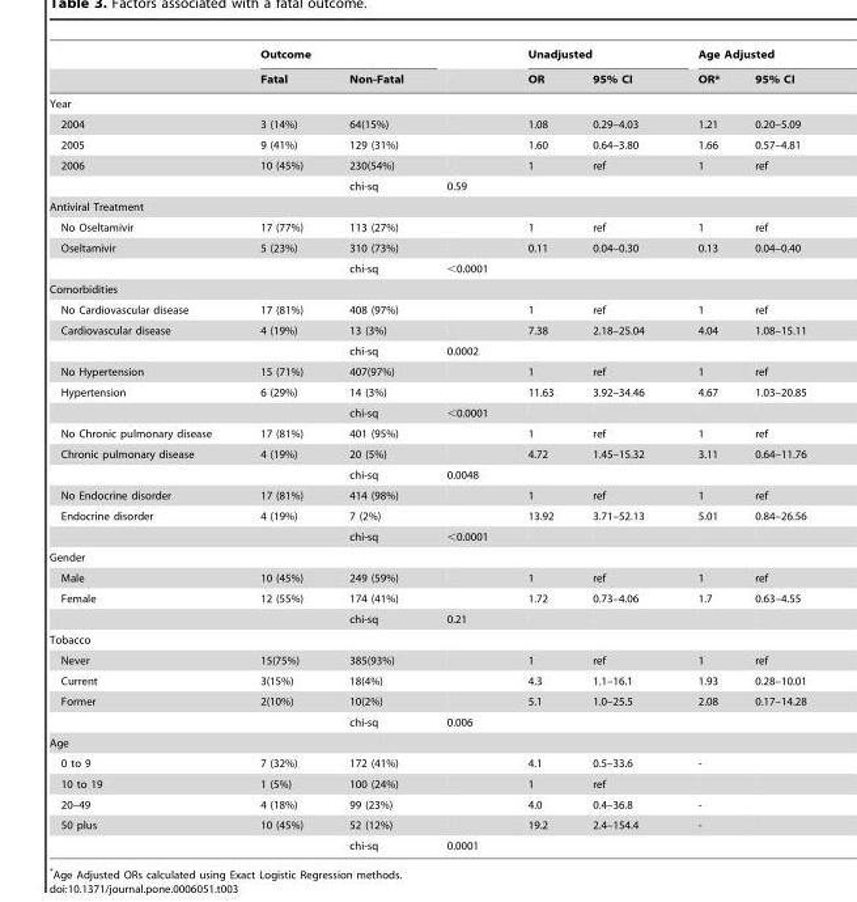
<table><thead><tr><td rowspan="2"></td><td colspan="2">Outcome</td><td rowspan="2"></td><td colspan="2">Unadjusted</td><td colspan="2">Age Adjusted</td></tr><tr><td>Fatal</td><td>Non-Fatal</td><td>OR</td><td>95% CI</td><td>OR*</td><td>95% CI</td></tr></thead><tbody><tr><td colspan="8">Year</td></tr><tr><td>2004</td><td>3 (14%)</td><td>64(15%)</td><td></td><td>1.08</td><td>0.29–4.03</td><td>1.21</td><td>0.20–5.09</td></tr><tr><td>2005</td><td>9 (41%)</td><td>129 (31%)</td><td></td><td>1.60</td><td>0.64–3.80</td><td>1.66</td><td>0.57–4.81</td></tr><tr><td rowspan="2">2006</td><td>10 (45%)</td><td>230(54%)</td><td></td><td>1</td><td>ref</td><td>1</td><td>ref</td></tr><tr><td></td><td>chi-sq</td><td>0.59</td><td></td><td></td><td></td><td></td></tr><tr><td colspan="8">Antiviral Treatment</td></tr><tr><td>No Oseltamivir</td><td>17 (77%)</td><td>113 (27%)</td><td></td><td>1</td><td>ref</td><td>1</td><td>ref</td></tr><tr><td rowspan="2">Oseltamivir</td><td>5 (23%)</td><td>310 (73%)</td><td></td><td>0.11</td><td>0.04–0.30</td><td>0.13</td><td>0.04–0.40</td></tr><tr><td></td><td>chi-sq</td><td>&lt;0.0001</td><td></td><td></td><td></td><td></td></tr><tr><td colspan="8">Comorbidities</td></tr><tr><td>No Cardiovascular disease</td><td>17 (81%)</td><td>408 (97%)</td><td></td><td>1</td><td>ref</td><td>1</td><td>ref</td></tr><tr><td rowspan="2">Cardiovascular disease</td><td>4 (19%)</td><td>13 (3%)</td><td></td><td>7.38</td><td>2.18–25.04</td><td>4.04</td><td>1.08–15.11</td></tr><tr><td></td><td>chi-sq</td><td>0.0002</td><td></td><td></td><td></td><td></td></tr><tr><td>No Hypertension</td><td>15 (71%)</td><td>407(97%)</td><td></td><td>1</td><td>ref</td><td>1</td><td>ref</td></tr><tr><td rowspan="2">Hypertension</td><td>6 (29%)</td><td>14 (3%)</td><td></td><td>11.63</td><td>3.92–34.46</td><td>4.67</td><td>1.03–20.85</td></tr><tr><td></td><td>chi-sq</td><td>&lt;0.0001</td><td></td><td></td><td></td><td></td></tr><tr><td>No Chronic pulmonary disease</td><td>17 (81%)</td><td>401 (95%)</td><td></td><td>1</td><td>ref</td><td>1</td><td>ref</td></tr><tr><td rowspan="2">Chronic pulmonary disease</td><td>4 (19%)</td><td>20 (5%)</td><td></td><td>4.72</td><td>1.45–15.32</td><td>3.11</td><td>0.64–11.76</td></tr><tr><td></td><td>chi-sq</td><td>0.0048</td><td></td><td></td><td></td><td></td></tr><tr><td>No Endocrine disorder</td><td>17 (81%)</td><td>414 (98%)</td><td></td><td>1</td><td>ref</td><td>1</td><td>ref</td></tr><tr><td rowspan="2">Endocrine disorder</td><td>4 (19%)</td><td>7 (2%)</td><td></td><td>13.92</td><td>3.71–52.13</td><td>5.01</td><td>0.84–26.56</td></tr><tr><td></td><td>chi-sq</td><td>&lt;0.0001</td><td></td><td></td><td></td><td></td></tr><tr><td colspan="8">Gender</td></tr><tr><td>Male</td><td>10 (45%)</td><td>249 (59%)</td><td></td><td>1</td><td>ref</td><td>1</td><td>ref</td></tr><tr><td rowspan="2">Female</td><td>12 (55%)</td><td>174 (41%)</td><td></td><td>1.72</td><td>0.73–4.06</td><td>1.7</td><td>0.63–4.55</td></tr><tr><td></td><td>chi-sq</td><td>0.21</td><td></td><td></td><td></td><td></td></tr><tr><td colspan="8">Tobacco</td></tr><tr><td>Never</td><td>15(75%)</td><td>385(93%)</td><td></td><td>1</td><td>ref</td><td>1</td><td>ref</td></tr><tr><td>Current</td><td>3(15%)</td><td>18(4%)</td><td></td><td>4.3</td><td>1.1–16.1</td><td>1.93</td><td>0.28–10.01</td></tr><tr><td rowspan="2">Former</td><td>2(10%)</td><td>10(2%)</td><td></td><td>5.1</td><td>1.0–25.5</td><td>2.08</td><td>0.17–14.28</td></tr><tr><td></td><td>chi-sq</td><td>0.006</td><td></td><td></td><td></td><td></td></tr><tr><td colspan="8">Age</td></tr><tr><td>0 to 9</td><td>7 (32%)</td><td>172 (41%)</td><td></td><td>4.1</td><td>0.5–33.6</td><td>-</td><td></td></tr><tr><td>10 to 19</td><td>1 (5%)</td><td>100 (24%)</td><td></td><td>1</td><td>ref</td><td></td><td></td></tr><tr><td>20–49</td><td>4 (18%)</td><td>99 (23%)</td><td></td><td>4.0</td><td>0.4–36.8</td><td>-</td><td></td></tr><tr><td rowspan="2">50 plus</td><td>10 (45%)</td><td>52 (12%)</td><td></td><td>19.2</td><td>2.4–154.4</td><td>-</td><td></td></tr><tr><td></td><td>chi-sq</td><td>0.0001</td><td></td><td></td><td></td><td></td></tr></tbody></table>